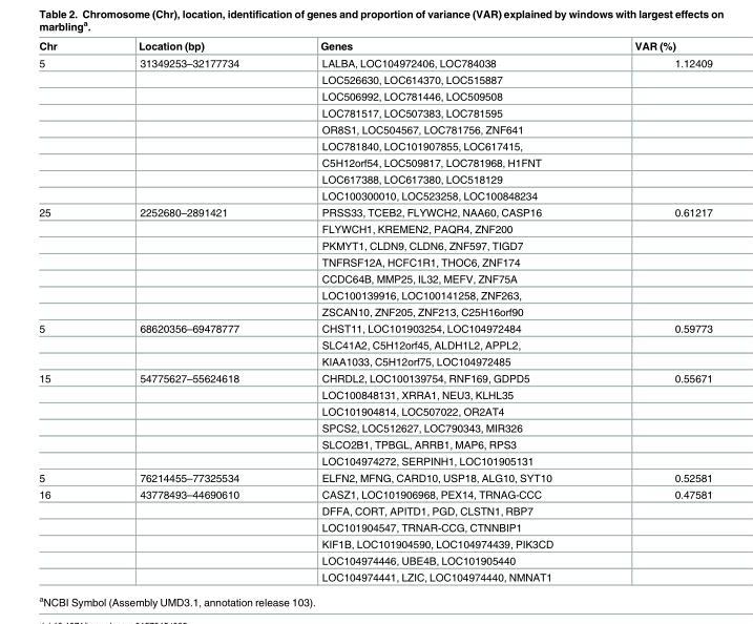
<table><thead><tr><td>Chr</td><td>Location (bp)</td><td>Genes</td><td>VAR (%)</td></tr></thead><tbody><tr><td rowspan="9">5</td><td>31349253–32177734</td><td>LALBA, LOC104972406, LOC784038</td><td>1.12409</td></tr><tr><td></td><td>LOC526630, LOC614370, LOC515887</td><td></td></tr><tr><td></td><td>LOC506992, LOC781446, LOC509508</td><td></td></tr><tr><td></td><td>LOC781517, LOC507383, LOC781595</td><td></td></tr><tr><td></td><td>OR8S1, LOC504567, LOC781756, ZNF641</td><td></td></tr><tr><td></td><td>LOC781840, LOC101907855, LOC617415,</td><td></td></tr><tr><td></td><td>C5H12orf54, LOC509817, LOC781968, H1FNT</td><td></td></tr><tr><td></td><td>LOC617388, LOC617380, LOC518129</td><td></td></tr><tr><td></td><td>LOC100300010, LOC523258, LOC100848234</td><td></td></tr><tr><td rowspan="7">25</td><td>2252680–2891421</td><td>PRSS33, TCEB2, FLYWCH2, NAA60, CASP16</td><td>0.61217</td></tr><tr><td></td><td>FLYWCH1, KREMEN2, PAQR4, ZNF200</td><td></td></tr><tr><td></td><td>PKMYT1, CLDN9, CLDN6, ZNF597, TIGD7</td><td></td></tr><tr><td></td><td>TNFRSF12A, HCFC1R1, THOC6, ZNF174</td><td></td></tr><tr><td></td><td>CCDC64B, MMP25, IL32, MEFV, ZNF75A</td><td></td></tr><tr><td></td><td>LOC100139916, LOC100141258, ZNF263,</td><td></td></tr><tr><td></td><td>ZSCAN10, ZNF205, ZNF213, C25H16orf90</td><td></td></tr><tr><td rowspan="3">5</td><td>68620356–69478777</td><td>CHST11, LOC101903254, LOC104972484</td><td>0.59773</td></tr><tr><td></td><td>SLC41A2, C5H12orf45, ALDH1L2, APPL2,</td><td></td></tr><tr><td></td><td>KIAA1033, C5H12orf75, LOC104972485</td><td></td></tr><tr><td rowspan="6">15</td><td>54775627–55624618</td><td>CHRDL2, LOC100139754, RNF169, GDPD5</td><td>0.55671</td></tr><tr><td></td><td>LOC100848131, XRRA1, NEU3, KLHL35</td><td></td></tr><tr><td></td><td>LOC101904814, LOC507022, OR2AT4</td><td></td></tr><tr><td></td><td>SPCS2, LOC512627, LOC790343, MIR326</td><td></td></tr><tr><td></td><td>SLCO2B1, TPBGL, ARRB1, MAP6, RPS3</td><td></td></tr><tr><td></td><td>LOC104974272, SERPINH1, LOC101905131</td><td></td></tr><tr><td>5</td><td>76214455–77325534</td><td>ELFN2, MFNG, CARD10, USP18, ALG10, SYT10</td><td>0.52581</td></tr><tr><td rowspan="6">16</td><td>43778493–44690610</td><td>CASZ1, LOC101906968, PEX14, TRNAG-CCC</td><td>0.47581</td></tr><tr><td></td><td>DFFA, CORT, APITD1, PGD, CLSTN1, RBP7</td><td></td></tr><tr><td></td><td>LOC101904547, TRNAR-CCG, CTNNBIP1</td><td></td></tr><tr><td></td><td>KIF1B, LOC101904590, LOC104974439, PIK3CD</td><td></td></tr><tr><td></td><td>LOC104974446, UBE4B, LOC101905440</td><td></td></tr><tr><td></td><td>LOC104974441, LZIC, LOC104974440, NMNAT1</td><td></td></tr></tbody></table>